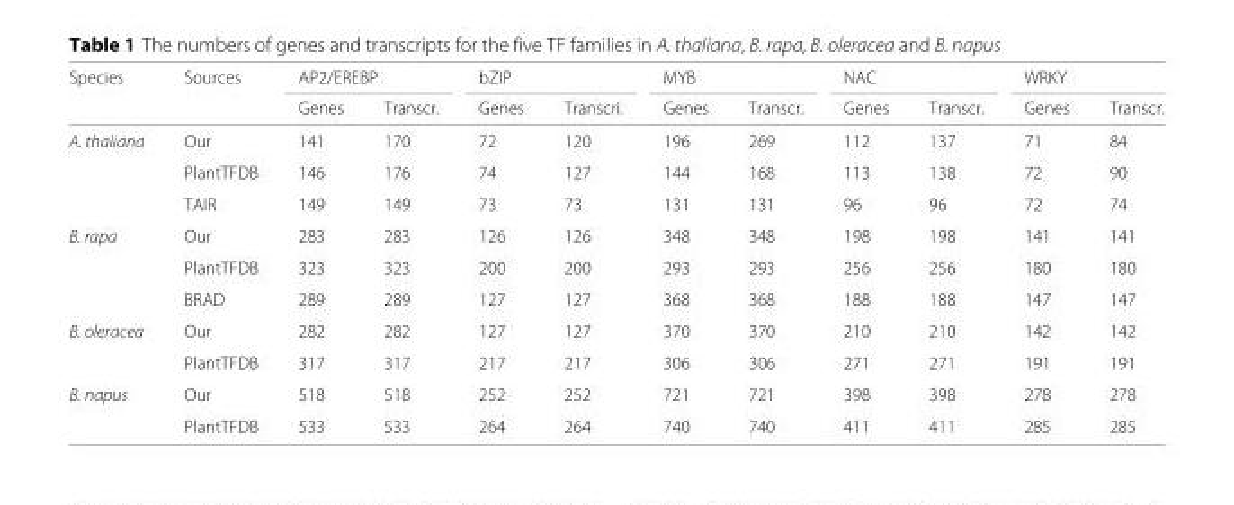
<table><thead><tr><td rowspan="2">Species</td><td rowspan="2">Sources</td><td colspan="2">AP2/EREBP</td><td colspan="2">bZIP</td><td colspan="2">MYB</td><td colspan="2">NAC</td><td colspan="2">WRKY</td></tr><tr><td>Genes</td><td>Transcr.</td><td>Genes</td><td>Transcri.</td><td>Genes</td><td>Transcr.</td><td>Genes</td><td>Transcr.</td><td>Genes</td><td>Transcr.</td></tr></thead><tbody><tr><td rowspan="3">A. thaliana</td><td>Our</td><td>141</td><td>170</td><td>72</td><td>120</td><td>196</td><td>269</td><td>112</td><td>137</td><td>71</td><td>84</td></tr><tr><td>PlantTFDB</td><td>146</td><td>176</td><td>74</td><td>127</td><td>144</td><td>168</td><td>113</td><td>138</td><td>72</td><td>90</td></tr><tr><td>TAIR</td><td>149</td><td>149</td><td>73</td><td>73</td><td>131</td><td>131</td><td>96</td><td>96</td><td>72</td><td>74</td></tr><tr><td rowspan="3">B. rapa</td><td>Our</td><td>283</td><td>283</td><td>126</td><td>126</td><td>348</td><td>348</td><td>198</td><td>198</td><td>141</td><td>141</td></tr><tr><td>PlantTFDB</td><td>323</td><td>323</td><td>200</td><td>200</td><td>293</td><td>293</td><td>256</td><td>256</td><td>180</td><td>180</td></tr><tr><td>BRAD</td><td>289</td><td>289</td><td>127</td><td>127</td><td>368</td><td>368</td><td>188</td><td>188</td><td>147</td><td>147</td></tr><tr><td rowspan="2">B. oleracea</td><td>Our</td><td>282</td><td>282</td><td>127</td><td>127</td><td>370</td><td>370</td><td>210</td><td>210</td><td>142</td><td>142</td></tr><tr><td>PlantTFDB</td><td>317</td><td>317</td><td>217</td><td>217</td><td>306</td><td>306</td><td>271</td><td>271</td><td>191</td><td>191</td></tr><tr><td rowspan="2">B. napus</td><td>Our</td><td>518</td><td>518</td><td>252</td><td>252</td><td>721</td><td>721</td><td>398</td><td>398</td><td>278</td><td>278</td></tr><tr><td>PlantTFDB</td><td>533</td><td>533</td><td>264</td><td>264</td><td>740</td><td>740</td><td>411</td><td>411</td><td>285</td><td>285</td></tr></tbody></table>